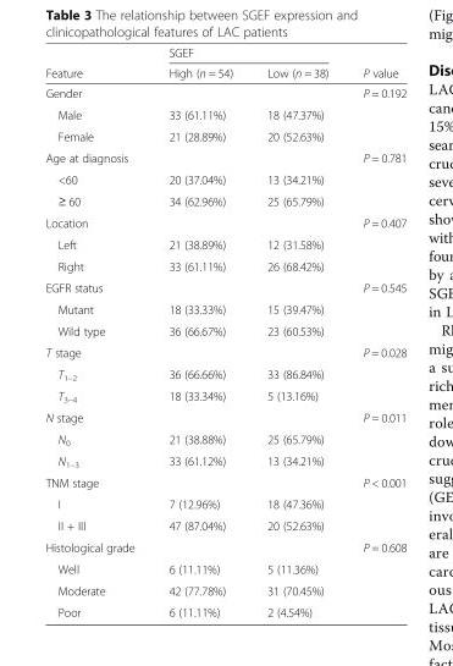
<table><thead><tr><td rowspan="2">Feature</td><td colspan="2">SGEF</td><td rowspan="2">P value</td></tr><tr><td>High (n = 54)</td><td>Low (n = 38)</td></tr></thead><tbody><tr><td>Gender</td><td></td><td></td><td>P = 0.192</td></tr><tr><td>Male</td><td>33 (61.11%)</td><td>18 (47.37%)</td><td></td></tr><tr><td>Female</td><td>21 (28.89%)</td><td>20 (52.63%)</td><td></td></tr><tr><td>Age at diagnosis</td><td></td><td></td><td>P = 0.781</td></tr><tr><td>&lt;60</td><td>20 (37.04%)</td><td>13 (34.21%)</td><td></td></tr><tr><td>≥ 60</td><td>34 (62.96%)</td><td>25 (65.79%)</td><td></td></tr><tr><td>Location</td><td></td><td></td><td>P = 0.407</td></tr><tr><td>Left</td><td>21 (38.89%)</td><td>12 (31.58%)</td><td></td></tr><tr><td>Right</td><td>33 (61.11%)</td><td>26 (68.42%)</td><td></td></tr><tr><td>EGFR status</td><td></td><td></td><td>P = 0.545</td></tr><tr><td>Mutant</td><td>18 (33.33%)</td><td>15 (39.47%)</td><td></td></tr><tr><td>Wild type</td><td>36 (66.67%)</td><td>23 (60.53%)</td><td></td></tr><tr><td>T stage</td><td></td><td></td><td>P = 0.028</td></tr><tr><td>T<sub>1–2</sub></td><td>36 (66.66%)</td><td>33 (86.84%)</td><td></td></tr><tr><td>T<sub>3–4</sub></td><td>18 (33.34%)</td><td>5 (13.16%)</td><td></td></tr><tr><td>N stage</td><td></td><td></td><td>P = 0.011</td></tr><tr><td>N<sub>0</sub></td><td>21 (38.88%)</td><td>25 (65.79%)</td><td></td></tr><tr><td>N<sub>1–3</sub></td><td>33 (61.12%)</td><td>13 (34.21%)</td><td></td></tr><tr><td>TNM stage</td><td></td><td></td><td>P &lt; 0.001</td></tr><tr><td>I</td><td>7 (12.96%)</td><td>18 (47.36%)</td><td></td></tr><tr><td>II + III</td><td>47 (87.04%)</td><td>20 (52.63%)</td><td></td></tr><tr><td>Histological grade</td><td></td><td></td><td>P = 0.608</td></tr><tr><td>Well</td><td>6 (11.11%)</td><td>5 (11.36%)</td><td></td></tr><tr><td>Moderate</td><td>42 (77.78%)</td><td>31 (70.45%)</td><td></td></tr><tr><td>Poor</td><td>6 (11.11%)</td><td>2 (4.54%)</td><td></td></tr></tbody></table>